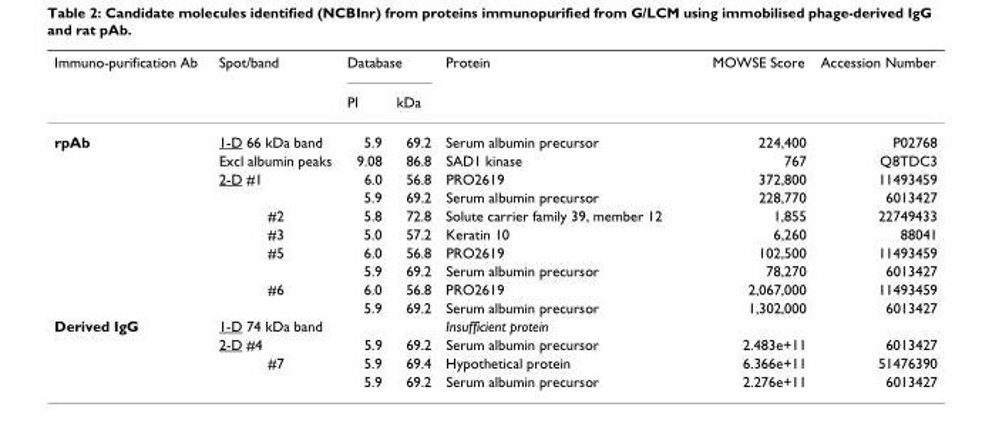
<table><thead><tr><td rowspan="2">Immuno-purification Ab</td><td rowspan="2">Spot/band</td><td colspan="2">Database</td><td rowspan="2">Protein</td><td rowspan="2">MOWSE Score</td><td rowspan="2">Accession Number</td></tr><tr><td>PI</td><td>kDa</td></tr></thead><tbody><tr><td rowspan="10">rpAb</td><td>1-D 66 kDa band</td><td>5.9</td><td>69.2</td><td>Serum albumin precursor</td><td>224,400</td><td>P02768</td></tr><tr><td>Excl albumin peaks</td><td>9.08</td><td>86.8</td><td>SAD1 kinase</td><td>767</td><td>Q8TDC3</td></tr><tr><td>2-D #1</td><td>6.0</td><td>56.8</td><td>PRO2619</td><td>372,800</td><td>11493459</td></tr><tr><td></td><td>5.9</td><td>69.2</td><td>Serum albumin precursor</td><td>228,770</td><td>6013427</td></tr><tr><td>#2</td><td>5.8</td><td>72.8</td><td>Solute carrier family 39, member 12</td><td>1,855</td><td>22749433</td></tr><tr><td>#3</td><td>5.0</td><td>57.2</td><td>Keratin 10</td><td>6,260</td><td>88041</td></tr><tr><td>#5</td><td>6.0</td><td>56.8</td><td>PRO2619</td><td>102,500</td><td>11493459</td></tr><tr><td></td><td>5.9</td><td>69.2</td><td>Serum albumin precursor</td><td>78,270</td><td>6013427</td></tr><tr><td>#6</td><td>6.0</td><td>56.8</td><td>PRO2619</td><td>2,067,000</td><td>11493459</td></tr><tr><td></td><td>5.9</td><td>69.2</td><td>Serum albumin precursor</td><td>1,302,000</td><td>6013427</td></tr><tr><td rowspan="4">Derived IgG</td><td>1-D 74 kDa band</td><td></td><td></td><td>Insufficient protein</td><td></td><td></td></tr><tr><td>2-D #4</td><td>5.9</td><td>69.2</td><td>Serum albumin precursor</td><td>2.483e+11</td><td>6013427</td></tr><tr><td>#7</td><td>5.9</td><td>69.4</td><td>Hypothetical protein</td><td>6.366e+11</td><td>51476390</td></tr><tr><td></td><td>5.9</td><td>69.2</td><td>Serum albumin precursor</td><td>2.276e+11</td><td>6013427</td></tr></tbody></table>